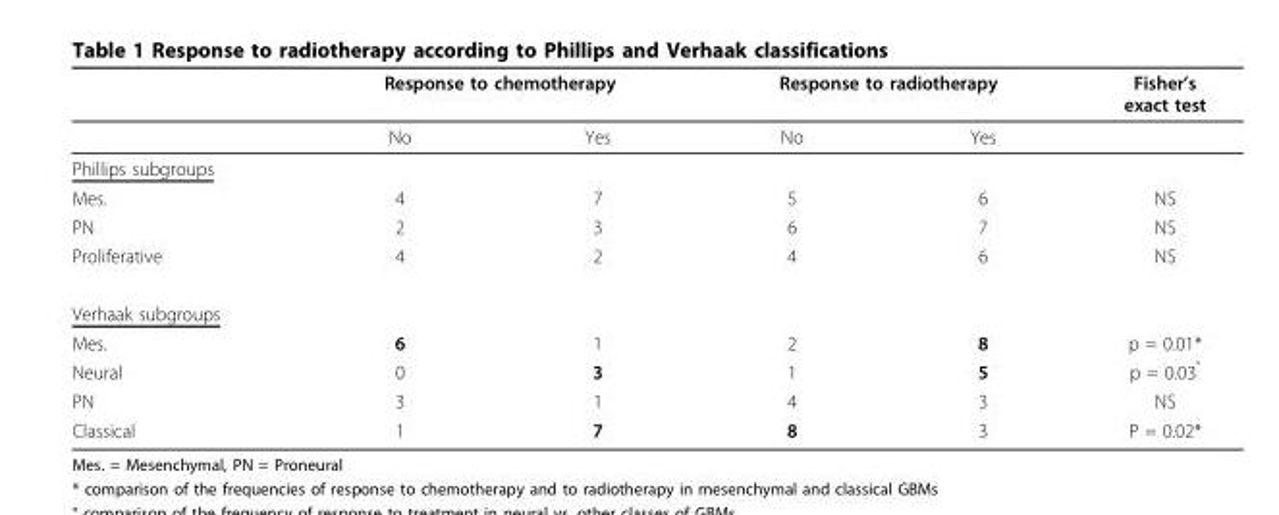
<table><thead><tr><td rowspan="2"></td><td colspan="2">Response to chemotherapy</td><td colspan="2">Response to radiotherapy</td><td rowspan="2">Fisher’s exact test</td></tr><tr><td>No</td><td>Yes</td><td>No</td><td>Yes</td></tr></thead><tbody><tr><td colspan="6">Phillips subgroups</td></tr><tr><td>Mes.</td><td>4</td><td>7</td><td>5</td><td>6</td><td>NS</td></tr><tr><td>PN</td><td>2</td><td>3</td><td>6</td><td>7</td><td>NS</td></tr><tr><td>Proliferative</td><td>4</td><td>2</td><td>4</td><td>6</td><td>NS</td></tr><tr><td colspan="6">Verhaak subgroups</td></tr><tr><td>Mes.</td><td>6</td><td>1</td><td>2</td><td>8</td><td>p = 0.01*</td></tr><tr><td>Neural</td><td>0</td><td>3</td><td>1</td><td>5</td><td>p = 0.03<sup>°</sup></td></tr><tr><td>PN</td><td>3</td><td>1</td><td>4</td><td>3</td><td>NS</td></tr><tr><td>Classical</td><td>1</td><td>7</td><td>8</td><td>3</td><td>P = 0.02*</td></tr></tbody></table>